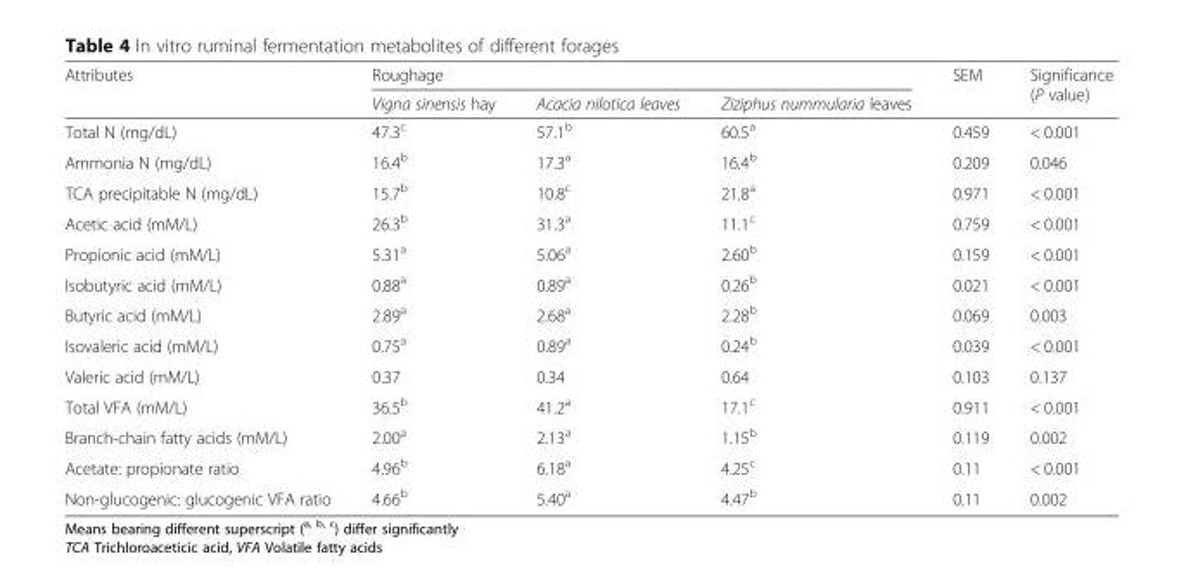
<table><thead><tr><td rowspan="2">Attributes</td><td colspan="3">Roughage</td><td rowspan="2">SEM</td><td rowspan="2">Significance (P value)</td></tr><tr><td>Vigna sinensis hay</td><td>Acacia nilotica leaves</td><td>Ziziphus nummularia leaves</td></tr></thead><tbody><tr><td>Total N (mg/dL)</td><td>47.3<sup>c</sup></td><td>57.1<sup>b</sup></td><td>60.5<sup>a</sup></td><td>0.459</td><td>&lt; 0.001</td></tr><tr><td>Ammonia N (mg/dL)</td><td>16.4<sup>b</sup></td><td>17.3<sup>a</sup></td><td>16.4<sup>b</sup></td><td>0.209</td><td>0.046</td></tr><tr><td>TCA precipitable N (mg/dL)</td><td>15.7<sup>b</sup></td><td>10.8<sup>c</sup></td><td>21.8<sup>a</sup></td><td>0.971</td><td>&lt; 0.001</td></tr><tr><td>Acetic acid (mM/L)</td><td>26.3<sup>b</sup></td><td>31.3<sup>a</sup></td><td>11.1<sup>c</sup></td><td>0.759</td><td>&lt; 0.001</td></tr><tr><td>Propionic acid (mM/L)</td><td>5.31<sup>a</sup></td><td>5.06<sup>a</sup></td><td>2.60<sup>b</sup></td><td>0.159</td><td>&lt; 0.001</td></tr><tr><td>Isobutyric acid (mM/L)</td><td>0.88<sup>a</sup></td><td>0.89<sup>a</sup></td><td>0.26<sup>b</sup></td><td>0.021</td><td>&lt; 0.001</td></tr><tr><td>Butyric acid (mM/L)</td><td>2.89<sup>a</sup></td><td>2.68<sup>a</sup></td><td>2.28<sup>b</sup></td><td>0.069</td><td>0.003</td></tr><tr><td>Isovaleric acid (mM/L)</td><td>0.75<sup>a</sup></td><td>0.89<sup>a</sup></td><td>0.24<sup>b</sup></td><td>0.039</td><td>&lt; 0.001</td></tr><tr><td>Valeric acid (mM/L)</td><td>0.37</td><td>0.34</td><td>0.64</td><td>0.103</td><td>0.137</td></tr><tr><td>Total VFA (mM/L)</td><td>36.5<sup>b</sup></td><td>41.2<sup>a</sup></td><td>17.1<sup>c</sup></td><td>0.911</td><td>&lt; 0.001</td></tr><tr><td>Branch-chain fatty acids (mM/L)</td><td>2.00<sup>a</sup></td><td>2.13<sup>a</sup></td><td>1.15<sup>b</sup></td><td>0.119</td><td>0.002</td></tr><tr><td>Acetate: propionate ratio</td><td>4.96<sup>b</sup></td><td>6.18<sup>a</sup></td><td>4.25<sup>c</sup></td><td>0.11</td><td>&lt; 0.001</td></tr><tr><td>Non-glucogenic: glucogenic VFA ratio</td><td>4.66<sup>b</sup></td><td>5.40<sup>a</sup></td><td>4.47<sup>b</sup></td><td>0.11</td><td>0.002</td></tr></tbody></table>